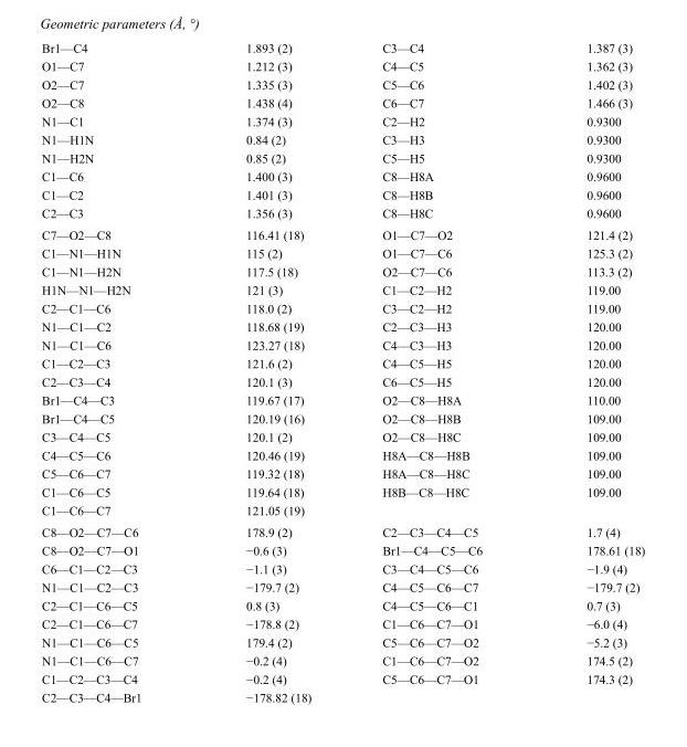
<table><tbody><tr><td>Br1—C4</td><td>1.893 (2)</td><td>C3—C4</td><td>1.387 (3)</td></tr><tr><td>O1—C7</td><td>1.212 (3)</td><td>C4—C5</td><td>1.362 (3)</td></tr><tr><td>O2—C7</td><td>1.335 (3)</td><td>C5—C6</td><td>1.402 (3)</td></tr><tr><td>O2—C8</td><td>1.438 (4)</td><td>C6—C7</td><td>1.466 (3)</td></tr><tr><td>N1—C1</td><td>1.374 (3)</td><td>C2—H2</td><td>0.9300</td></tr><tr><td>N1—H1N</td><td>0.84 (2)</td><td>C3—H3</td><td>0.9300</td></tr><tr><td>N1—H2N</td><td>0.85 (2)</td><td>C5—H5</td><td>0.9300</td></tr><tr><td>C1—C6</td><td>1.400 (3)</td><td>C8—H8A</td><td>0.9600</td></tr><tr><td>C1—C2</td><td>1.401 (3)</td><td>C8—H8B</td><td>0.9600</td></tr><tr><td>C2—C3</td><td>1.356 (3)</td><td>C8—H8C</td><td>0.9600</td></tr><tr><td>C7—O2—C8</td><td>116.41 (18)</td><td>O1—C7—O2</td><td>121.4 (2)</td></tr><tr><td>C1—N1—H1N</td><td>115 (2)</td><td>O1—C7—C6</td><td>125.3 (2)</td></tr><tr><td>C1—N1—H2N</td><td>117.5 (18)</td><td>O2—C7—C6</td><td>113.3 (2)</td></tr><tr><td>H1N—N1—H2N</td><td>121 (3)</td><td>C1—C2—H2</td><td>119.00</td></tr><tr><td>C2—C1—C6</td><td>118.0 (2)</td><td>C3—C2—H2</td><td>119.00</td></tr><tr><td>N1—C1—C2</td><td>118.68 (19)</td><td>C2—C3—H3</td><td>120.00</td></tr><tr><td>N1—C1—C6</td><td>123.27 (18)</td><td>C4—C3—H3</td><td>120.00</td></tr><tr><td>C1—C2—C3</td><td>121.6 (2)</td><td>C4—C5—H5</td><td>120.00</td></tr><tr><td>C2—C3—C4</td><td>120.1 (3)</td><td>C6—C5—H5</td><td>120.00</td></tr><tr><td>Br1—C4—C3</td><td>119.67 (17)</td><td>O2—C8—H8A</td><td>110.00</td></tr><tr><td>Br1—C4—C5</td><td>120.19 (16)</td><td>O2—C8—H8B</td><td>109.00</td></tr><tr><td>C3—C4—C5</td><td>120.1 (2)</td><td>O2—C8—H8C</td><td>109.00</td></tr><tr><td>C4—C5—C6</td><td>120.46 (19)</td><td>H8A—C8—H8B</td><td>109.00</td></tr><tr><td>C5—C6—C7</td><td>119.32 (18)</td><td>H8A—C8—H8C</td><td>109.00</td></tr><tr><td>C1—C6—C5</td><td>119.64 (18)</td><td>H8B—C8—H8C</td><td>109.00</td></tr><tr><td>C1—C6—C7</td><td>121.05 (19)</td><td></td><td></td></tr><tr><td>C8—O2—C7—C6</td><td>178.9 (2)</td><td>C2—C3—C4—C5</td><td>1.7 (4)</td></tr><tr><td>C8—O2—C7—O1</td><td>−0.6 (3)</td><td>Br1—C4—C5—C6</td><td>178.61 (18)</td></tr><tr><td>C6—C1—C2—C3</td><td>−1.1 (3)</td><td>C3—C4—C5—C6</td><td>−1.9 (4)</td></tr><tr><td>N1—C1—C2—C3</td><td>−179.7 (2)</td><td>C4—C5—C6—C7</td><td>−179.7 (2)</td></tr><tr><td>C2—C1—C6—C5</td><td>0.8 (3)</td><td>C4—C5—C6—C1</td><td>0.7 (3)</td></tr><tr><td>C2—C1—C6—C7</td><td>−178.8 (2)</td><td>C1—C6—C7—O1</td><td>−6.0 (4)</td></tr><tr><td>N1—C1—C6—C5</td><td>179.4 (2)</td><td>C5—C6—C7—O2</td><td>−5.2 (3)</td></tr><tr><td>N1—C1—C6—C7</td><td>−0.2 (4)</td><td>C1—C6—C7—O2</td><td>174.5 (2)</td></tr><tr><td>C1—C2—C3—C4</td><td>−0.2 (4)</td><td>C5—C6—C7—O1</td><td>174.3 (2)</td></tr><tr><td>C2—C3—C4—Br1</td><td>−178.82 (18)</td><td></td><td></td></tr></tbody></table>